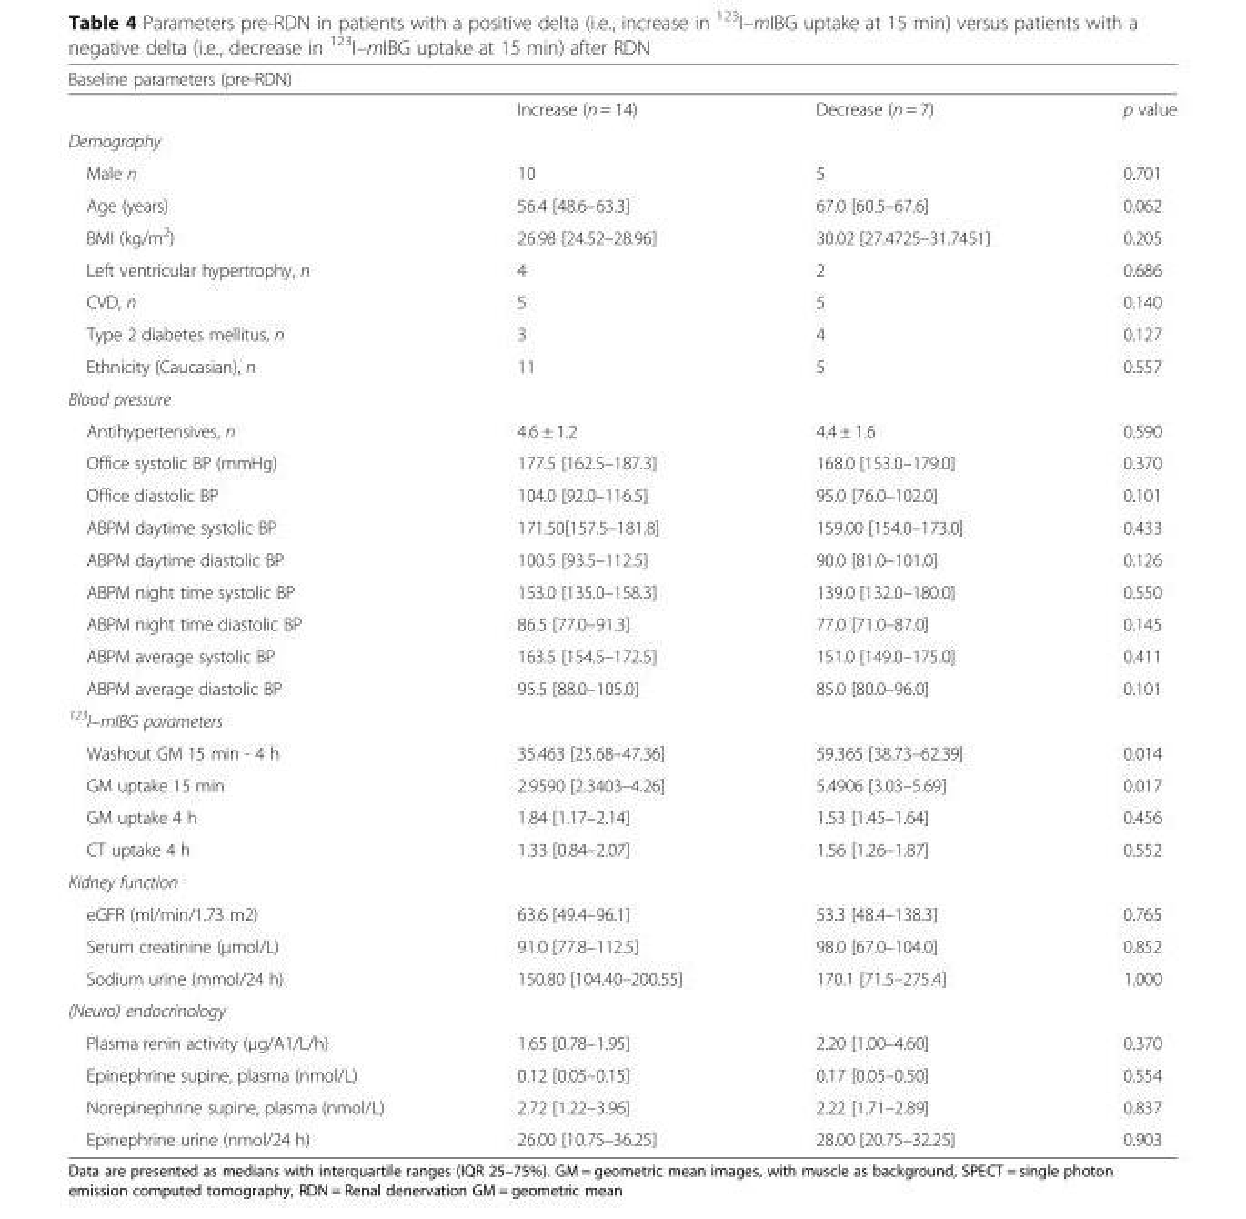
<table><thead><tr><td colspan="3">Baseline parameters (pre-RDN)</td><td rowspan="2">p value</td></tr><tr><td></td><td>Increase (n = 14)</td><td>Decrease (n = 7)</td></tr></thead><tbody><tr><td colspan="4">Demography</td></tr><tr><td>Male n</td><td>10</td><td>5</td><td>0.701</td></tr><tr><td>Age (years)</td><td>56.4 [48.6–63.3]</td><td>67.0 [60.5–67.6]</td><td>0.062</td></tr><tr><td>BMI (kg/m<sup>2</sup>)</td><td>26.98 [24.52–28.96]</td><td>30.02 [27.4725–31.7451]</td><td>0.205</td></tr><tr><td>Left ventricular hypertrophy, n</td><td>4</td><td>2</td><td>0.686</td></tr><tr><td>CVD, n</td><td>5</td><td>5</td><td>0.140</td></tr><tr><td>Type 2 diabetes mellitus, n</td><td>3</td><td>4</td><td>0.127</td></tr><tr><td>Ethnicity (Caucasian), n</td><td>11</td><td>5</td><td>0.557</td></tr><tr><td colspan="4">Blood pressure</td></tr><tr><td>Antihypertensives, n</td><td>4.6 ± 1.2</td><td>4.4 ± 1.6</td><td>0.590</td></tr><tr><td>Office systolic BP (mmHg)</td><td>177.5 [162.5–187.3]</td><td>168.0 [153.0–179.0]</td><td>0.370</td></tr><tr><td>Office diastolic BP</td><td>104.0 [92.0–116.5]</td><td>95.0 [76.0–102.0]</td><td>0.101</td></tr><tr><td>ABPM daytime systolic BP</td><td>171.50[157.5–181.8]</td><td>159.00 [154.0–173.0]</td><td>0.433</td></tr><tr><td>ABPM daytime diastolic BP</td><td>100.5 [93.5–112.5]</td><td>90.0 [81.0–101.0]</td><td>0.126</td></tr><tr><td>ABPM night time systolic BP</td><td>153.0 [135.0–158.3]</td><td>139.0 [132.0–180.0]</td><td>0.550</td></tr><tr><td>ABPM night time diastolic BP</td><td>86.5 [77.0–91.3]</td><td>77.0 [71.0–87.0]</td><td>0.145</td></tr><tr><td>ABPM average systolic BP</td><td>163.5 [154.5–172.5]</td><td>151.0 [149.0–175.0]</td><td>0.411</td></tr><tr><td>ABPM average diastolic BP</td><td>95.5 [88.0–105.0]</td><td>85.0 [80.0–96.0]</td><td>0.101</td></tr><tr><td colspan="4"><sup>123</sup>I–mIBG parameters</td></tr><tr><td>Washout GM 15 min - 4 h</td><td>35.463 [25.68–47.36]</td><td>59.365 [38.73–62.39]</td><td>0.014</td></tr><tr><td>GM uptake 15 min</td><td>2.9590 [2.3403–4.26]</td><td>5.4906 [3.03–5.69]</td><td>0.017</td></tr><tr><td>GM uptake 4 h</td><td>1.84 [1.17–2.14]</td><td>1.53 [1.45–1.64]</td><td>0.456</td></tr><tr><td>CT uptake 4 h</td><td>1.33 [0.84–2.07]</td><td>1.56 [1.26–1.87]</td><td>0.552</td></tr><tr><td colspan="4">Kidney function</td></tr><tr><td>eGFR (ml/min/1.73 m2)</td><td>63.6 [49.4–96.1]</td><td>53.3 [48.4–138.3]</td><td>0.765</td></tr><tr><td>Serum creatinine (μmol/L)</td><td>91.0 [77.8–112.5]</td><td>98.0 [67.0–104.0]</td><td>0.852</td></tr><tr><td>Sodium urine (mmol/24 h)</td><td>150.80 [104.40–200.55]</td><td>170.1 [71.5–275.4]</td><td>1.000</td></tr><tr><td colspan="4">(Neuro) endocrinology</td></tr><tr><td>Plasma renin activity (μg/A1/L/h)</td><td>1.65 [0.78–1.95]</td><td>2.20 [1.00–4.60]</td><td>0.370</td></tr><tr><td>Epinephrine supine, plasma (nmol/L)</td><td>0.12 [0.05–0.15]</td><td>0.17 [0.05–0.50]</td><td>0.554</td></tr><tr><td>Norepinephrine supine, plasma (nmol/L)</td><td>2.72 [1.22–3.96]</td><td>2.22 [1.71–2.89]</td><td>0.837</td></tr><tr><td>Epinephrine urine (nmol/24 h)</td><td>26.00 [10.75–36.25]</td><td>28.00 [20.75–32.25]</td><td>0.903</td></tr></tbody></table>